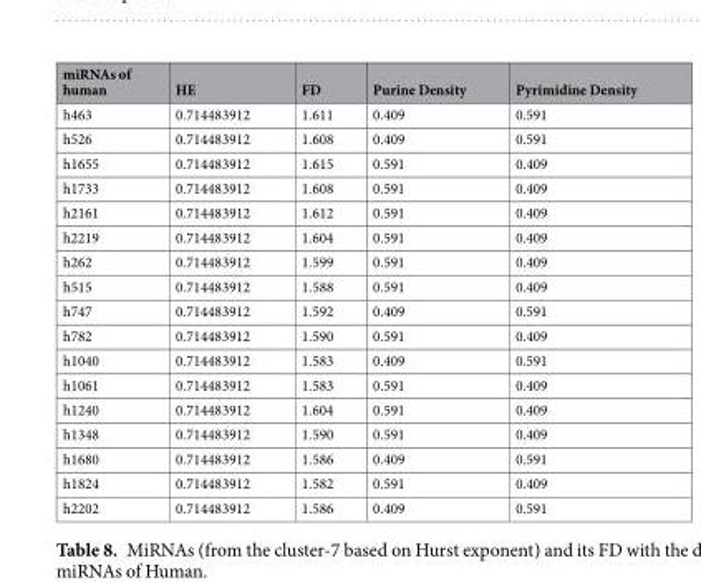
<table><thead><tr><td>miRNAs of human</td><td>HE</td><td>FD</td><td>Purine Density</td><td>Pyrimidine Density</td></tr></thead><tbody><tr><td>h463</td><td>0.714483912</td><td>1.611</td><td>0.409</td><td>0.591</td></tr><tr><td>h526</td><td>0.714483912</td><td>1.608</td><td>0.409</td><td>0.591</td></tr><tr><td>h1655</td><td>0.714483912</td><td>1.615</td><td>0.591</td><td>0.409</td></tr><tr><td>h1733</td><td>0.714483912</td><td>1.608</td><td>0.591</td><td>0.409</td></tr><tr><td>h2161</td><td>0.714483912</td><td>1.612</td><td>0.591</td><td>0.409</td></tr><tr><td>h2219</td><td>0.714483912</td><td>1.604</td><td>0.591</td><td>0.409</td></tr><tr><td>h262</td><td>0.714483912</td><td>1.599</td><td>0.591</td><td>0.409</td></tr><tr><td>h515</td><td>0.714483912</td><td>1.588</td><td>0.591</td><td>0.409</td></tr><tr><td>h747</td><td>0.714483912</td><td>1.592</td><td>0.409</td><td>0.591</td></tr><tr><td>h782</td><td>0.714483912</td><td>1.590</td><td>0.591</td><td>0.409</td></tr><tr><td>h1040</td><td>0.714483912</td><td>1.583</td><td>0.409</td><td>0.591</td></tr><tr><td>h1061</td><td>0.714483912</td><td>1.583</td><td>0.591</td><td>0.409</td></tr><tr><td>h1240</td><td>0.714483912</td><td>1.604</td><td>0.591</td><td>0.409</td></tr><tr><td>h1348</td><td>0.714483912</td><td>1.590</td><td>0.591</td><td>0.409</td></tr><tr><td>h1680</td><td>0.714483912</td><td>1.586</td><td>0.409</td><td>0.591</td></tr><tr><td>h1824</td><td>0.714483912</td><td>1.582</td><td>0.591</td><td>0.409</td></tr><tr><td>h2202</td><td>0.714483912</td><td>1.586</td><td>0.409</td><td>0.591</td></tr></tbody></table>